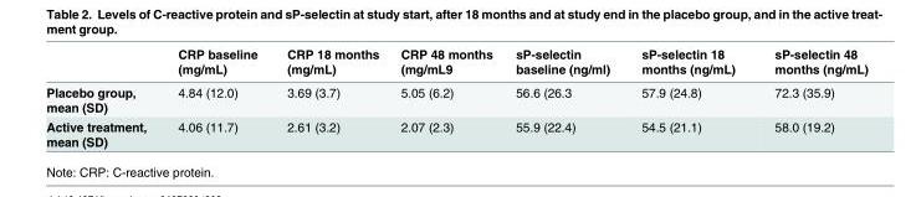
<table><thead><tr><td></td><td>CRP baseline (mg/mL)</td><td>CRP 18 months (mg/mL)</td><td>CRP 48 months (mg/mL9</td><td>sP-selectin baseline (ng/ml)</td><td>sP-selectin 18 months (ng/mL)</td><td>sP-selectin 48 months (ng/mL)</td></tr></thead><tbody><tr><td>Placebo group, mean (SD)</td><td>4.84 (12.0)</td><td>3.69 (3.7)</td><td>5.05 (6.2)</td><td>56.6 (26.3</td><td>57.9 (24.8)</td><td>72.3 (35.9)</td></tr><tr><td>Active treatment, mean (SD)</td><td>4.06 (11.7)</td><td>2.61 (3.2)</td><td>2.07 (2.3)</td><td>55.9 (22.4)</td><td>54.5 (21.1)</td><td>58.0 (19.2)</td></tr></tbody></table>